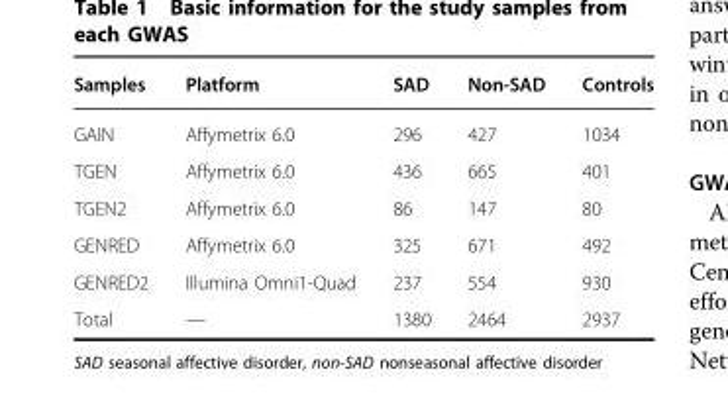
<table><thead><tr><td>Samples</td><td>Platform</td><td>SAD</td><td>Non-SAD</td><td>Controls</td></tr></thead><tbody><tr><td>GAIN</td><td>Affymetrix 6.0</td><td>296</td><td>427</td><td>1034</td></tr><tr><td>TGEN</td><td>Affymetrix 6.0</td><td>436</td><td>665</td><td>401</td></tr><tr><td>TGEN2</td><td>Affymetrix 6.0</td><td>86</td><td>147</td><td>80</td></tr><tr><td>GENRED</td><td>Affymetrix 6.0</td><td>325</td><td>671</td><td>492</td></tr><tr><td>GENRED2</td><td>Illumina Omni1-Quad</td><td>237</td><td>554</td><td>930</td></tr><tr><td>Total</td><td>—</td><td>1380</td><td>2464</td><td>2937</td></tr></tbody></table>